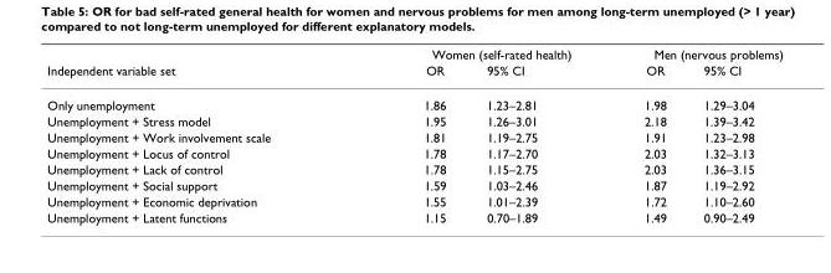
<table><thead><tr><td rowspan="2">Independent variable set</td><td colspan="2">Women (self-rated health)</td><td colspan="2">Men (nervous problems)</td></tr><tr><td>OR</td><td>95% CI</td><td>OR</td><td>95% CI</td></tr></thead><tbody><tr><td>Only unemployment</td><td>1.86</td><td>1.23–2.81</td><td>1.98</td><td>1.29–3.04</td></tr><tr><td>Unemployment + Stress model</td><td>1.95</td><td>1.26–3.01</td><td>2.18</td><td>1.39–3.42</td></tr><tr><td>Unemployment + Work involvement scale</td><td>1.81</td><td>1.19–2.75</td><td>1.91</td><td>1.23–2.98</td></tr><tr><td>Unemployment + Locus of control</td><td>1.78</td><td>1.17–2.70</td><td>2.03</td><td>1.32–3.13</td></tr><tr><td>Unemployment + Lack of control</td><td>1.78</td><td>1.15–2.75</td><td>2.03</td><td>1.36–3.15</td></tr><tr><td>Unemployment + Social support</td><td>1.59</td><td>1.03–2.46</td><td>1.87</td><td>1.19–2.92</td></tr><tr><td>Unemployment + Economic deprivation</td><td>1.55</td><td>1.01–2.39</td><td>1.72</td><td>1.10–2.60</td></tr><tr><td>Unemployment + Latent functions</td><td>1.15</td><td>0.70–1.89</td><td>1.49</td><td>0.90–2.49</td></tr></tbody></table>